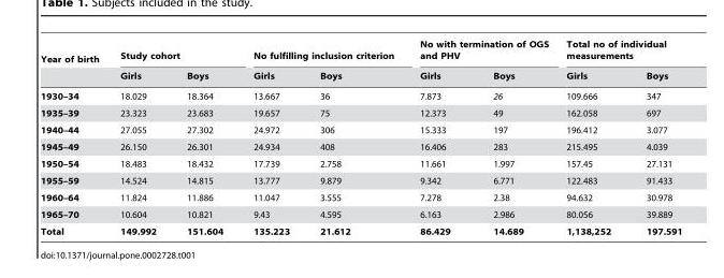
<table><thead><tr><td rowspan="2">Year of birth</td><td colspan="2">Study cohort</td><td colspan="2">No fulfilling inclusion criterion</td><td colspan="2">No with termination of OGS and PHV</td><td colspan="2">Total no of individual measurements</td></tr><tr><td>Girls</td><td>Boys</td><td>Girls</td><td>Boys</td><td>Girls</td><td>Boys</td><td>Girls</td><td>Boys</td></tr></thead><tbody><tr><td>1930–34</td><td>18.029</td><td>18.364</td><td>13.667</td><td>36</td><td>7.873</td><td>26</td><td>109.666</td><td>347</td></tr><tr><td>1935–39</td><td>23.323</td><td>23.683</td><td>19.657</td><td>75</td><td>12.373</td><td>49</td><td>162.058</td><td>697</td></tr><tr><td>1940–44</td><td>27.055</td><td>27.302</td><td>24.972</td><td>306</td><td>15.333</td><td>197</td><td>196.412</td><td>3.077</td></tr><tr><td>1945–49</td><td>26.150</td><td>26.301</td><td>24.934</td><td>408</td><td>16.406</td><td>283</td><td>215.495</td><td>4.039</td></tr><tr><td>1950–54</td><td>18.483</td><td>18.432</td><td>17.739</td><td>2.758</td><td>11.661</td><td>1.997</td><td>157.45</td><td>27.131</td></tr><tr><td>1955–59</td><td>14.524</td><td>14.815</td><td>13.777</td><td>9.879</td><td>9.342</td><td>6.771</td><td>122.483</td><td>91.433</td></tr><tr><td>1960–64</td><td>11.824</td><td>11.886</td><td>11.047</td><td>3.555</td><td>7.278</td><td>2.38</td><td>94.632</td><td>30.978</td></tr><tr><td>1965–70</td><td>10.604</td><td>10.821</td><td>9.43</td><td>4.595</td><td>6.163</td><td>2.986</td><td>80.056</td><td>39.889</td></tr><tr><td>Total</td><td>149.992</td><td>151.604</td><td>135.223</td><td>21.612</td><td>86.429</td><td>14.689</td><td>1,138,252</td><td>197.591</td></tr></tbody></table>